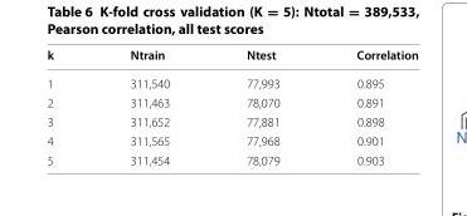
<table><thead><tr><td>k</td><td>Ntrain</td><td>Ntest</td><td>Correlation</td></tr></thead><tbody><tr><td>1</td><td>311,540</td><td>77,993</td><td>0.895</td></tr><tr><td>2</td><td>311,463</td><td>78,070</td><td>0.891</td></tr><tr><td>3</td><td>311,652</td><td>77,881</td><td>0.898</td></tr><tr><td>4</td><td>311,565</td><td>77,968</td><td>0.901</td></tr><tr><td>5</td><td>311,454</td><td>78,079</td><td>0.903</td></tr></tbody></table>